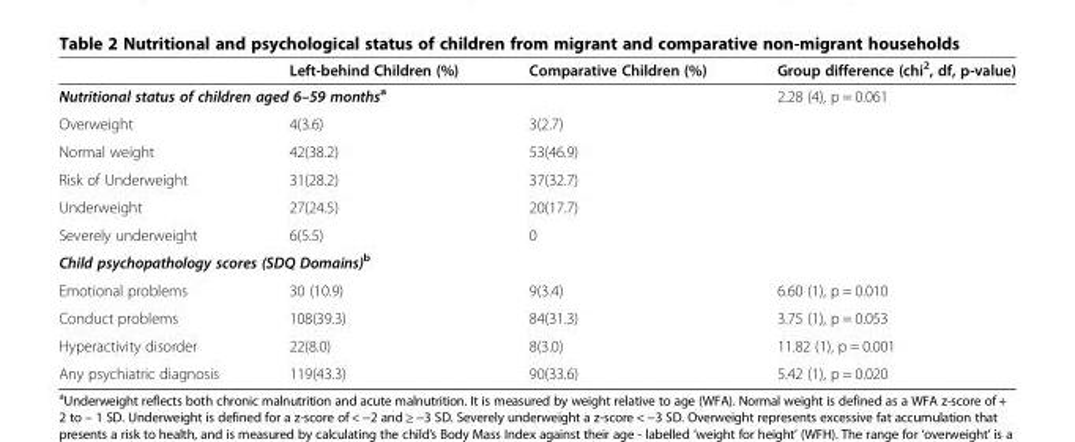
<table><thead><tr><td></td><td>Left-behind Children (%)</td><td>Comparative Children (%)</td><td>Group difference (chi<sup>2</sup>, df, p-value)</td></tr></thead><tbody><tr><td colspan="3">Nutritional status of children aged 6–59 months<sup>a</sup></td><td>2.28 (4), p = 0.061</td></tr><tr><td>Overweight</td><td>4(3.6)</td><td>3(2.7)</td><td></td></tr><tr><td>Normal weight</td><td>42(38.2)</td><td>53(46.9)</td><td></td></tr><tr><td>Risk of Underweight</td><td>31(28.2)</td><td>37(32.7)</td><td></td></tr><tr><td>Underweight</td><td>27(24.5)</td><td>20(17.7)</td><td></td></tr><tr><td>Severely underweight</td><td>6(5.5)</td><td>0</td><td></td></tr><tr><td colspan="4">Child psychopathology scores (SDQ Domains)<sup>b</sup></td></tr><tr><td>Emotional problems</td><td>30 (10.9)</td><td>9(3.4)</td><td>6.60 (1), p = 0.010</td></tr><tr><td>Conduct problems</td><td>108(39.3)</td><td>84(31.3)</td><td>3.75 (1), p = 0.053</td></tr><tr><td>Hyperactivity disorder</td><td>22(8.0)</td><td>8(3.0)</td><td>11.82 (1), p = 0.001</td></tr><tr><td>Any psychiatric diagnosis</td><td>119(43.3)</td><td>90(33.6)</td><td>5.42 (1), p = 0.020</td></tr></tbody></table>